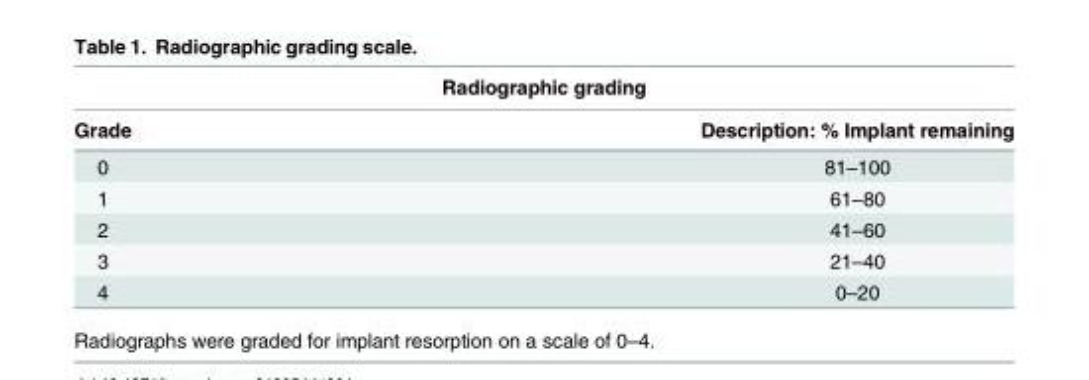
<table><thead><tr><td colspan="2">Radiographic grading</td></tr><tr><td>Grade</td><td>Description: % Implant remaining</td></tr></thead><tbody><tr><td>0</td><td>81–100</td></tr><tr><td>1</td><td>61–80</td></tr><tr><td>2</td><td>41–60</td></tr><tr><td>3</td><td>21–40</td></tr><tr><td>4</td><td>0–20</td></tr></tbody></table>